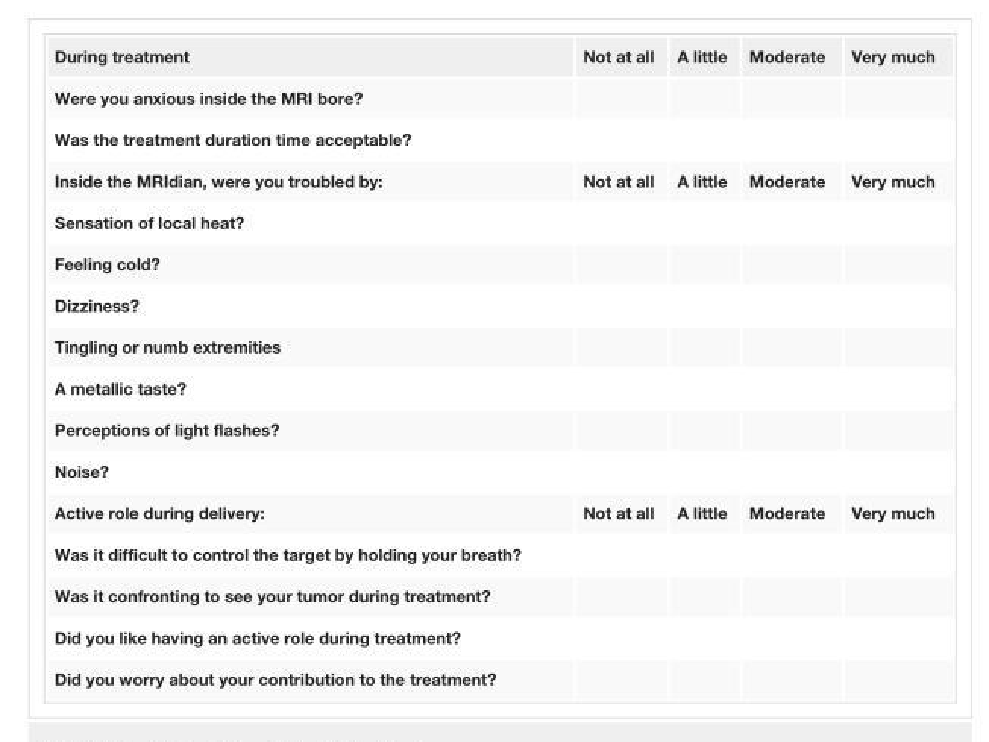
<table><tbody><tr><td>During treatment</td><td>Not at all</td><td>A little</td><td>Moderate</td><td>Very much</td></tr><tr><td colspan="5">Were you anxious inside the MRI bore?</td></tr><tr><td colspan="5">Was the treatment duration time acceptable?</td></tr><tr><td>Inside the MRIdian, were you troubled by:</td><td>Not at all</td><td>A little</td><td>Moderate</td><td>Very much</td></tr><tr><td colspan="5">Sensation of local heat?</td></tr><tr><td colspan="5">Feeling cold?</td></tr><tr><td colspan="5">Dizziness?</td></tr><tr><td colspan="5">Tingling or numb extremities</td></tr><tr><td colspan="5">A metallic taste?</td></tr><tr><td colspan="5">Perceptions of light flashes?</td></tr><tr><td colspan="5">Noise?</td></tr><tr><td>Active role during delivery:</td><td>Not at all</td><td>A little</td><td>Moderate</td><td>Very much</td></tr><tr><td colspan="5">Was it difficult to control the target by holding your breath?</td></tr><tr><td colspan="5">Was it confronting to see your tumor during treatment?</td></tr><tr><td colspan="5">Did you like having an active role during treatment?</td></tr><tr><td>Did you worry about your contribution to the treatment?</td><td></td><td></td><td></td><td></td></tr></tbody></table>